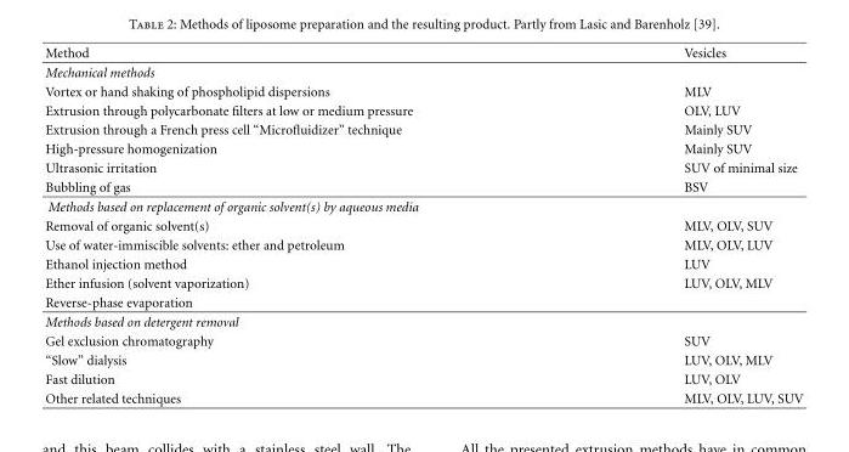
<table><thead><tr><td>Method</td><td>Vesicles</td></tr></thead><tbody><tr><td colspan="2">Mechanical methods</td></tr><tr><td>Vortex or hand shaking of phospholipid dispersions</td><td>MLV</td></tr><tr><td>Extrusion through polycarbonate filters at low or medium pressure</td><td>OLV, LUV</td></tr><tr><td>Extrusion through a French press cell “Microfluidizer” technique</td><td>Mainly SUV</td></tr><tr><td>High-pressure homogenization</td><td>Mainly SUV</td></tr><tr><td>Ultrasonic irritation</td><td>SUV of minimal size</td></tr><tr><td>Bubbling of gas</td><td>BSV</td></tr><tr><td colspan="2">Methods based on replacement of organic solvent(s) by aqueous media</td></tr><tr><td>Removal of organic solvent(s)</td><td>MLV, OLV, SUV</td></tr><tr><td>Use of water-immiscible solvents: ether and petroleum</td><td>MLV, OLV, LUV</td></tr><tr><td>Ethanol injection method</td><td>LUV</td></tr><tr><td>Ether infusion (solvent vaporization)</td><td>LUV, OLV, MLV</td></tr><tr><td colspan="2">Reverse-phase evaporation</td></tr><tr><td colspan="2">Methods based on detergent removal</td></tr><tr><td>Gel exclusion chromatography</td><td>SUV</td></tr><tr><td>“Slow” dialysis</td><td>LUV, OLV, MLV</td></tr><tr><td>Fast dilution</td><td>LUV, OLV</td></tr><tr><td>Other related techniques</td><td>MLV, OLV, LUV, SUV</td></tr></tbody></table>